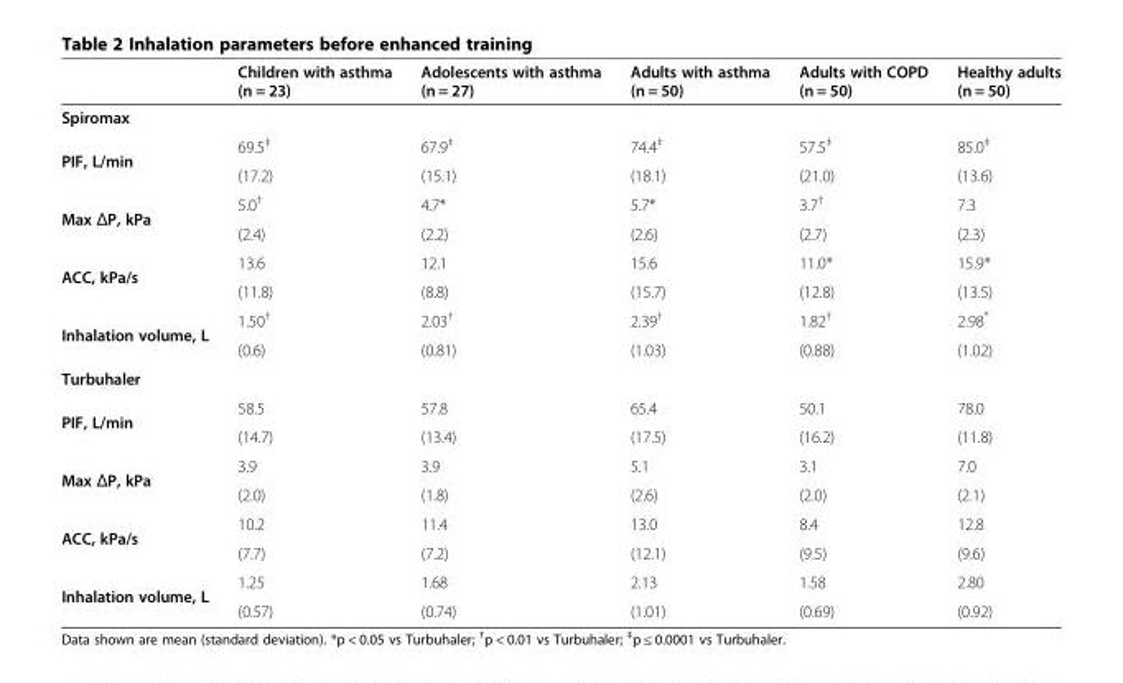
<table><thead><tr><td></td><td>Children with asthma (n = 23)</td><td>Adolescents with asthma (n = 27)</td><td>Adults with asthma (n = 50)</td><td>Adults with COPD (n = 50)</td><td>Healthy adults (n = 50)</td></tr></thead><tbody><tr><td colspan="6">Spiromax</td></tr><tr><td rowspan="2">PIF, L/min</td><td>69.5<sup>‡</sup></td><td>67.9<sup>‡</sup></td><td>74.4<sup>‡</sup></td><td>57.5<sup>‡</sup></td><td>85.0<sup>‡</sup></td></tr><tr><td>(17.2)</td><td>(15.1)</td><td>(18.1)</td><td>(21.0)</td><td>(13.6)</td></tr><tr><td rowspan="2">Max ΔP, kPa</td><td>5.0<sup>†</sup></td><td>4.7*</td><td>5.7*</td><td>3.7<sup>†</sup></td><td>7.3</td></tr><tr><td>(2.4)</td><td>(2.2)</td><td>(2.6)</td><td>(2.7)</td><td>(2.3)</td></tr><tr><td rowspan="2">ACC, kPa/s</td><td>13.6</td><td>12.1</td><td>15.6</td><td>11.0*</td><td>15.9*</td></tr><tr><td>(11.8)</td><td>(8.8)</td><td>(15.7)</td><td>(12.8)</td><td>(13.5)</td></tr><tr><td rowspan="2">Inhalation volume, L</td><td>1.50<sup>†</sup></td><td>2.03<sup>†</sup></td><td>2.39<sup>†</sup></td><td>1.82<sup>†</sup></td><td>2.98*</td></tr><tr><td>(0.6)</td><td>(0.81)</td><td>(1.03)</td><td>(0.88)</td><td>(1.02)</td></tr><tr><td colspan="6">Turbuhaler</td></tr><tr><td rowspan="2">PIF, L/min</td><td>58.5</td><td>57.8</td><td>65.4</td><td>50.1</td><td>78.0</td></tr><tr><td>(14.7)</td><td>(13.4)</td><td>(17.5)</td><td>(16.2)</td><td>(11.8)</td></tr><tr><td rowspan="2">Max ΔP, kPa</td><td>3.9</td><td>3.9</td><td>5.1</td><td>3.1</td><td>7.0</td></tr><tr><td>(2.0)</td><td>(1.8)</td><td>(2.6)</td><td>(2.0)</td><td>(2.1)</td></tr><tr><td rowspan="2">ACC, kPa/s</td><td>10.2</td><td>11.4</td><td>13.0</td><td>8.4</td><td>12.8</td></tr><tr><td>(7.7)</td><td>(7.2)</td><td>(12.1)</td><td>(9.5)</td><td>(9.6)</td></tr><tr><td rowspan="2">Inhalation volume, L</td><td>1.25</td><td>1.68</td><td>2.13</td><td>1.58</td><td>2.80</td></tr><tr><td>(0.57)</td><td>(0.74)</td><td>(1.01)</td><td>(0.69)</td><td>(0.92)</td></tr></tbody></table>